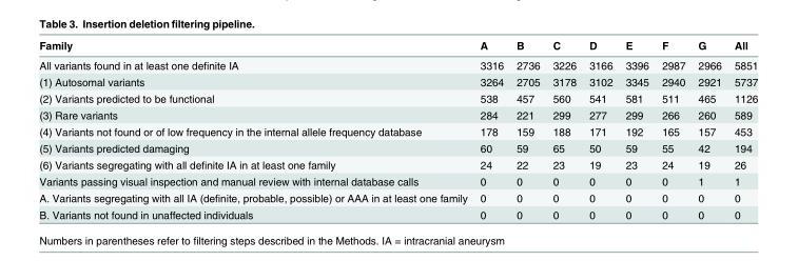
<table><thead><tr><td>Family</td><td>A</td><td>B</td><td>C</td><td>D</td><td>E</td><td>F</td><td>G</td><td>All</td></tr></thead><tbody><tr><td>All variants found in at least one definite IA</td><td>3316</td><td>2736</td><td>3226</td><td>3166</td><td>3396</td><td>2987</td><td>2966</td><td>5851</td></tr><tr><td>(1) Autosomal variants</td><td>3264</td><td>2705</td><td>3178</td><td>3102</td><td>3345</td><td>2940</td><td>2921</td><td>5737</td></tr><tr><td>(2) Variants predicted to be functional</td><td>538</td><td>457</td><td>560</td><td>541</td><td>581</td><td>511</td><td>465</td><td>1126</td></tr><tr><td>(3) Rare variants</td><td>284</td><td>221</td><td>299</td><td>277</td><td>299</td><td>266</td><td>260</td><td>589</td></tr><tr><td>(4) Variants not found or of low frequency in the internal allele frequency database</td><td>178</td><td>159</td><td>188</td><td>171</td><td>192</td><td>165</td><td>157</td><td>453</td></tr><tr><td>(5) Variants predicted damaging</td><td>60</td><td>59</td><td>65</td><td>50</td><td>59</td><td>55</td><td>42</td><td>194</td></tr><tr><td>(6) Variants segregating with all definite IA in at least one family</td><td>24</td><td>22</td><td>23</td><td>19</td><td>23</td><td>24</td><td>19</td><td>26</td></tr><tr><td>Variants passing visual inspection and manual review with internal database calls</td><td>0</td><td>0</td><td>0</td><td>0</td><td>0</td><td>0</td><td>1</td><td>1</td></tr><tr><td>A. Variants segregating with all IA (definite, probable, possible) or AAA in at least one family</td><td>0</td><td>0</td><td>0</td><td>0</td><td>0</td><td>0</td><td>0</td><td>0</td></tr><tr><td>B. Variants not found in unaffected individuals</td><td>0</td><td>0</td><td>0</td><td>0</td><td>0</td><td>0</td><td>0</td><td>0</td></tr></tbody></table>